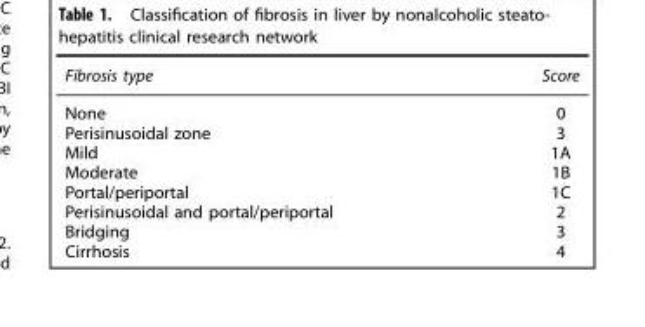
<table><thead><tr><td>Fibrosis type</td><td>Score</td></tr></thead><tbody><tr><td>None</td><td>0</td></tr><tr><td>Perisinusoidal zone</td><td>3</td></tr><tr><td>Mild</td><td>1A</td></tr><tr><td>Moderate</td><td>1B</td></tr><tr><td>Portal/periportal</td><td>1C</td></tr><tr><td>Perisinusoidal and portal/periportal</td><td>2</td></tr><tr><td>Bridging</td><td>3</td></tr><tr><td>Cirrhosis</td><td>4</td></tr></tbody></table>